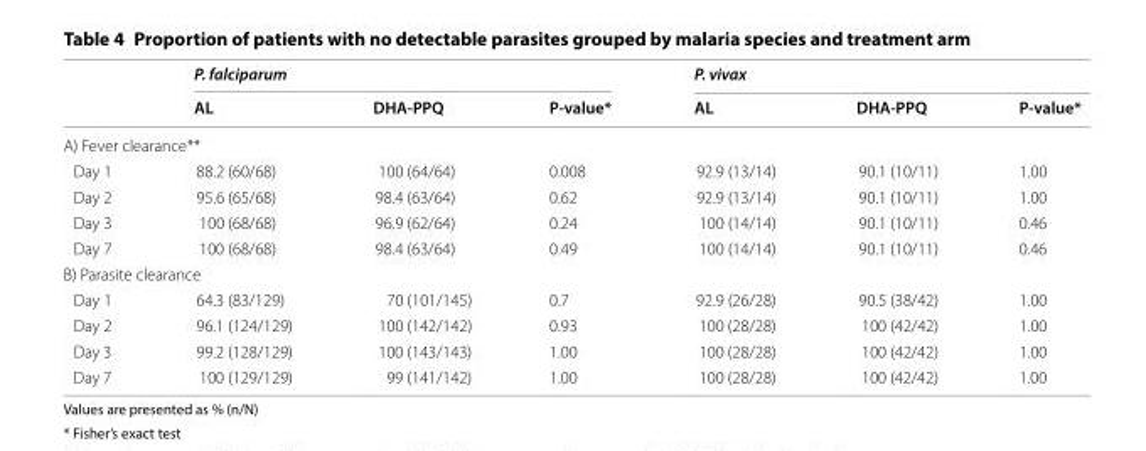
<table><thead><tr><td rowspan="2"></td><td colspan="3">P. falciparum</td><td colspan="3">P. vivax</td></tr><tr><td>AL</td><td>DHA‑PPQ</td><td>P‑value*</td><td>AL</td><td>DHA‑PPQ</td><td>P‑value*</td></tr></thead><tbody><tr><td colspan="7">A) Fever clearance**</td></tr><tr><td>Day 1</td><td>88.2 (60/68)</td><td>100 (64/64)</td><td>0.008</td><td>92.9 (13/14)</td><td>90.1 (10/11)</td><td>1.00</td></tr><tr><td>Day 2</td><td>95.6 (65/68)</td><td>98.4 (63/64)</td><td>0.62</td><td>92.9 (13/14)</td><td>90.1 (10/11)</td><td>1.00</td></tr><tr><td>Day 3</td><td>100 (68/68)</td><td>96.9 (62/64)</td><td>0.24</td><td>100 (14/14)</td><td>90.1 (10/11)</td><td>0.46</td></tr><tr><td>Day 7</td><td>100 (68/68)</td><td>98.4 (63/64)</td><td>0.49</td><td>100 (14/14)</td><td>90.1 (10/11)</td><td>0.46</td></tr><tr><td colspan="7">B) Parasite clearance</td></tr><tr><td>Day 1</td><td>64.3 (83/129)</td><td>70 (101/145)</td><td>0.7</td><td>92.9 (26/28)</td><td>90.5 (38/42)</td><td>1.00</td></tr><tr><td>Day 2</td><td>96.1 (124/129)</td><td>100 (142/142)</td><td>0.93</td><td>100 (28/28)</td><td>100 (42/42)</td><td>1.00</td></tr><tr><td>Day 3</td><td>99.2 (128/129)</td><td>100 (143/143)</td><td>1.00</td><td>100 (28/28)</td><td>100 (42/42)</td><td>1.00</td></tr><tr><td>Day 7</td><td>100 (129/129)</td><td>99 (141/142)</td><td>1.00</td><td>100 (28/28)</td><td>100 (42/42)</td><td>1.00</td></tr></tbody></table>